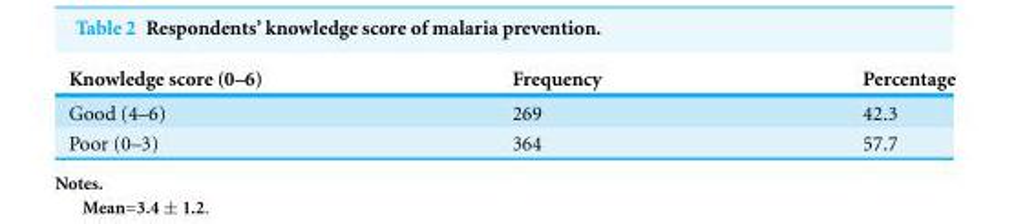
<table><thead><tr><td>Knowledge score (0–6)</td><td>Frequency</td><td>Percentage</td></tr></thead><tbody><tr><td>Good (4–6)</td><td>269</td><td>42.3</td></tr><tr><td>Poor (0–3)</td><td>364</td><td>57.7</td></tr></tbody></table>